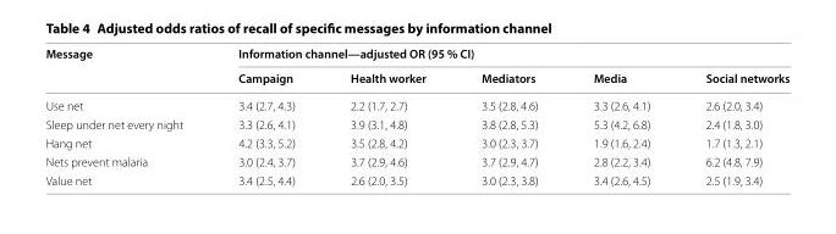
<table><thead><tr><td rowspan="2">Message</td><td colspan="5">Information channel—adjusted OR (95 % CI)</td></tr><tr><td>Campaign</td><td>Health worker</td><td>Mediators</td><td>Media</td><td>Social networks</td></tr></thead><tbody><tr><td>Use net</td><td>3.4 (2.7, 4.3)</td><td>2.2 (1.7, 2.7)</td><td>3.5 (2.8, 4.6)</td><td>3.3 (2.6, 4.1)</td><td>2.6 (2.0, 3.4)</td></tr><tr><td>Sleep under net every night</td><td>3.3 (2.6, 4.1)</td><td>3.9 (3.1, 4.8)</td><td>3.8 (2.8, 5.3)</td><td>5.3 (4.2, 6.8)</td><td>2.4 (1.8, 3.0)</td></tr><tr><td>Hang net</td><td>4.2 (3.3, 5.2)</td><td>3.5 (2.8, 4.2)</td><td>3.0 (2.3, 3.7)</td><td>1.9 (1.6, 2.4)</td><td>1.7 (1.3, 2.1)</td></tr><tr><td>Nets prevent malaria</td><td>3.0 (2.4, 3.7)</td><td>3.7 (2.9, 4.6)</td><td>3.7 (2.9, 4.7)</td><td>2.8 (2.2, 3.4)</td><td>6.2 (4.8, 7.9)</td></tr><tr><td>Value net</td><td>3.4 (2.5, 4.4)</td><td>2.6 (2.0, 3.5)</td><td>3.0 (2.3, 3.8)</td><td>3.4 (2.6, 4.5)</td><td>2.5 (1.9, 3.4)</td></tr></tbody></table>